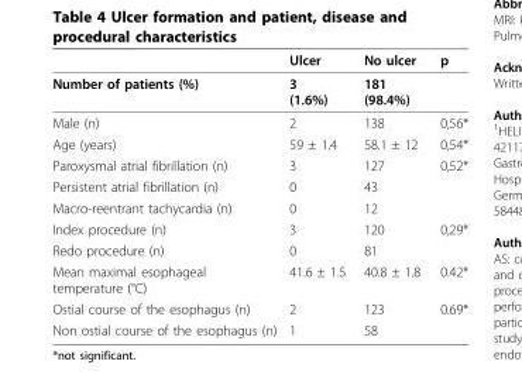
<table><thead><tr><td></td><td>Ulcer</td><td>No ulcer</td><td>p</td></tr></thead><tbody><tr><td>Number of patients (%)</td><td>3 (1.6%)</td><td>181 (98.4%)</td><td></td></tr><tr><td>Male (n)</td><td>2</td><td>138</td><td>0,56*</td></tr><tr><td>Age (years)</td><td>59 ± 1.4</td><td>58.1 ± 12</td><td>0,54*</td></tr><tr><td>Paroxysmal atrial fibrillation (n)</td><td>3</td><td>127</td><td>0,52*</td></tr><tr><td>Persistent atrial fibrillation (n)</td><td>0</td><td>43</td><td></td></tr><tr><td>Macro-reentrant tachycardia (n)</td><td>0</td><td>12</td><td></td></tr><tr><td>Index procedure (n)</td><td>3</td><td>120</td><td>0,29*</td></tr><tr><td>Redo procedure (n)</td><td>0</td><td>81</td><td></td></tr><tr><td>Mean maximal esophageal temperature (°C)</td><td>41.6 ± 1.5</td><td>40.8 ± 1.8</td><td>0.42*</td></tr><tr><td>Ostial course of the esophagus (n)</td><td>2</td><td>123</td><td>0.69*</td></tr><tr><td>Non ostial course of the esophagus (n)</td><td>1</td><td>58</td><td></td></tr></tbody></table>